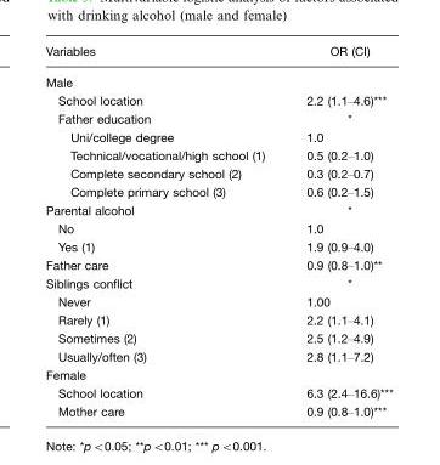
<table><thead><tr><td>Variables</td><td>OR (CI)</td></tr></thead><tbody><tr><td colspan="2">Male</td></tr><tr><td>School location</td><td>2.2 (1.1–4.6)***</td></tr><tr><td>Father education</td><td>*</td></tr><tr><td>Uni/college degree</td><td>1.0</td></tr><tr><td>Technical/vocational/high school (1)</td><td>0.5 (0.2–1.0)</td></tr><tr><td>Complete secondary school (2)</td><td>0.3 (0.2–0.7)</td></tr><tr><td>Complete primary school (3)</td><td>0.6 (0.2–1.5)</td></tr><tr><td>Parental alcohol</td><td>*</td></tr><tr><td>No</td><td>1.0</td></tr><tr><td>Yes (1)</td><td>1.9 (0.9–4.0)</td></tr><tr><td>Father care</td><td>0.9 (0.8–1.0)**</td></tr><tr><td>Siblings conflict</td><td>*</td></tr><tr><td>Never</td><td>1.00</td></tr><tr><td>Rarely (1)</td><td>2.2 (1.1–4.1)</td></tr><tr><td>Sometimes (2)</td><td>2.5 (1.2–4.9)</td></tr><tr><td>Usually/often (3)</td><td>2.8 (1.1–7.2)</td></tr><tr><td colspan="2">Female</td></tr><tr><td>School location</td><td>6.3 (2.4–16.6)***</td></tr><tr><td>Mother care</td><td>0.9 (0.8–1.0)***</td></tr></tbody></table>